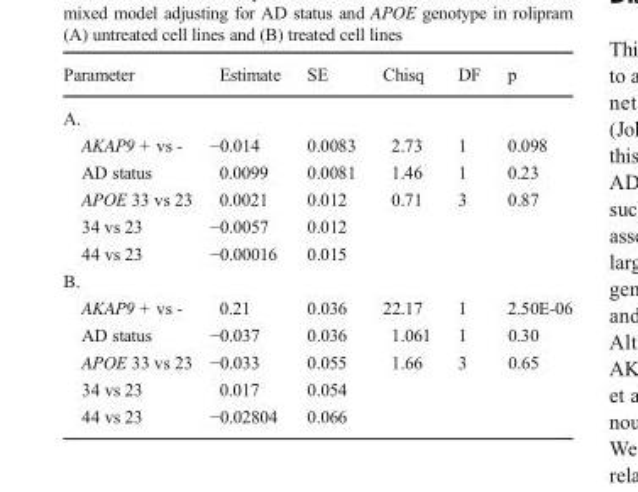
<table><thead><tr><td>Parameter</td><td>Estimate</td><td>SE</td><td>Chisq</td><td>DF</td><td>p</td></tr></thead><tbody><tr><td colspan="6">A.</td></tr><tr><td>AKAP9 + vs -</td><td>−0.014</td><td>0.0083</td><td>2.73</td><td>1</td><td>0.098</td></tr><tr><td>AD status</td><td>0.0099</td><td>0.0081</td><td>1.46</td><td>1</td><td>0.23</td></tr><tr><td>APOE 33 vs 23</td><td>0.0021</td><td>0.012</td><td>0.71</td><td>3</td><td>0.87</td></tr><tr><td>34 vs 23</td><td>−0.0057</td><td>0.012</td><td></td><td></td><td></td></tr><tr><td>44 vs 23</td><td>−0.00016</td><td>0.015</td><td></td><td></td><td></td></tr><tr><td colspan="6">B.</td></tr><tr><td>AKAP9 + vs -</td><td>0.21</td><td>0.036</td><td>22.17</td><td>1</td><td>2.50E-06</td></tr><tr><td>AD status</td><td>−0.037</td><td>0.036</td><td>1.061</td><td>1</td><td>0.30</td></tr><tr><td>APOE 33 vs 23</td><td>−0.033</td><td>0.055</td><td>1.66</td><td>3</td><td>0.65</td></tr><tr><td>34 vs 23</td><td>0.017</td><td>0.054</td><td></td><td></td><td></td></tr><tr><td>44 vs 23</td><td>−0.02804</td><td>0.066</td><td></td><td></td><td></td></tr></tbody></table>